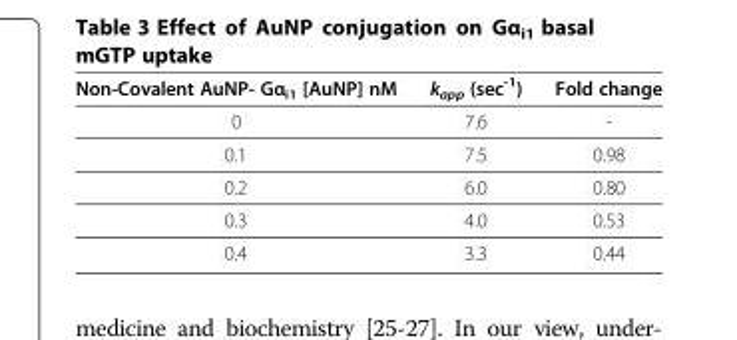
<table><thead><tr><td>Non-Covalent AuNP- Gα<sub>i1</sub> [AuNP] nM</td><td>k<sub>app</sub> (sec<sup>-1</sup>)</td><td>Fold change</td></tr></thead><tbody><tr><td>0</td><td>7.6</td><td>-</td></tr><tr><td>0.1</td><td>7.5</td><td>0.98</td></tr><tr><td>0.2</td><td>6.0</td><td>0.80</td></tr><tr><td>0.3</td><td>4.0</td><td>0.53</td></tr><tr><td>0.4</td><td>3.3</td><td>0.44</td></tr></tbody></table>